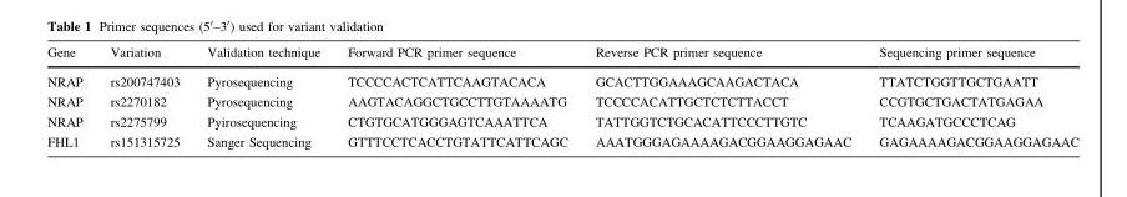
<table><thead><tr><td>Gene</td><td>Variation</td><td>Validation technique</td><td>Forward PCR primer sequence</td><td>Reverse PCR primer sequence</td><td>Sequencing primer sequence</td></tr></thead><tbody><tr><td>NRAP</td><td>rs200747403</td><td>Pyrosequencing</td><td>TCCCCACTCATTCAAGTACACA</td><td>GCACTTGGAAAGCAAGACTACA</td><td>TTATCTGGTTGCTGAATT</td></tr><tr><td>NRAP</td><td>rs2270182</td><td>Pyrosequencing</td><td>AAGTACAGGCTGCCTTGTAAAATG</td><td>TCCCCACATTGCTCTCTTACCT</td><td>CCGTGCTGACTATGAGAA</td></tr><tr><td>NRAP</td><td>rs2275799</td><td>Pyirosequencing</td><td>CTGTGCATGGGAGTCAAATTCA</td><td>TATTGGTCTGCACATTCCCTTGTC</td><td>TCAAGATGCCCTCAG</td></tr><tr><td>FHL1</td><td>rs151315725</td><td>Sanger Sequencing</td><td>GTTTCCTCACCTGTATTCATTCAGC</td><td>AAATGGGAGAAAAGACGGAAGGAGAAC</td><td>GAGAAAAGACGGAAGGAGAAC</td></tr></tbody></table>